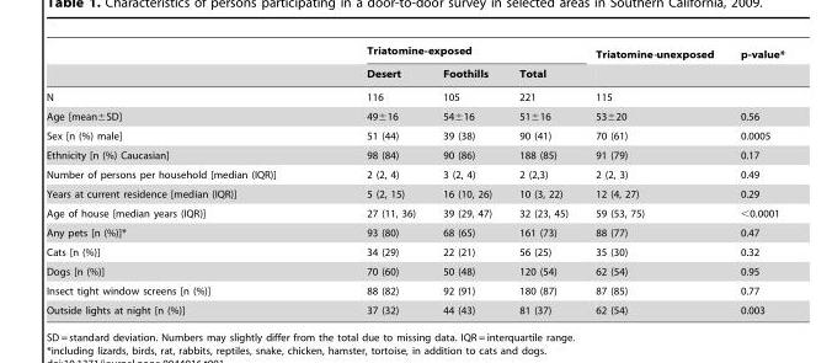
<table><thead><tr><td rowspan="2"></td><td colspan="3">Triatomine-exposed</td><td rowspan="2">Triatomine-unexposed</td><td rowspan="2">p-value*</td></tr><tr><td>Desert</td><td>Foothills</td><td>Total</td></tr></thead><tbody><tr><td>N</td><td>116</td><td>105</td><td>221</td><td>115</td><td></td></tr><tr><td>Age [mean±SD]</td><td>49±16</td><td>54±16</td><td>51±16</td><td>53±20</td><td>0.56</td></tr><tr><td>Sex [n (%) male]</td><td>51 (44)</td><td>39 (38)</td><td>90 (41)</td><td>70 (61)</td><td>0.0005</td></tr><tr><td>Ethnicity [n (%) Caucasian]</td><td>98 (84)</td><td>90 (86)</td><td>188 (85)</td><td>91 (79)</td><td>0.17</td></tr><tr><td>Number of persons per household [median (IQR)]</td><td>2 (2, 4)</td><td>3 (2, 4)</td><td>2 (2,3)</td><td>2 (2, 3)</td><td>0.49</td></tr><tr><td>Years at current residence [median (IQR)]</td><td>5 (2, 15)</td><td>16 (10, 26)</td><td>10 (3, 22)</td><td>12 (4, 27)</td><td>0.29</td></tr><tr><td>Age of house [median years (IQR)]</td><td>27 (11, 36)</td><td>39 (29, 47)</td><td>32 (23, 45)</td><td>59 (53, 75)</td><td>&lt;0.0001</td></tr><tr><td>Any pets [n (%)]*</td><td>93 (80)</td><td>68 (65)</td><td>161 (73)</td><td>88 (77)</td><td>0.47</td></tr><tr><td>Cats [n (%)]</td><td>34 (29)</td><td>22 (21)</td><td>56 (25)</td><td>35 (30)</td><td>0.32</td></tr><tr><td>Dogs [n (%)]</td><td>70 (60)</td><td>50 (48)</td><td>120 (54)</td><td>62 (54)</td><td>0.95</td></tr><tr><td>Insect tight window screens [n (%)]</td><td>88 (82)</td><td>92 (91)</td><td>180 (87)</td><td>87 (85)</td><td>0.77</td></tr><tr><td>Outside lights at night [n (%)]</td><td>37 (32)</td><td>44 (43)</td><td>81 (37)</td><td>62 (54)</td><td>0.003</td></tr></tbody></table>